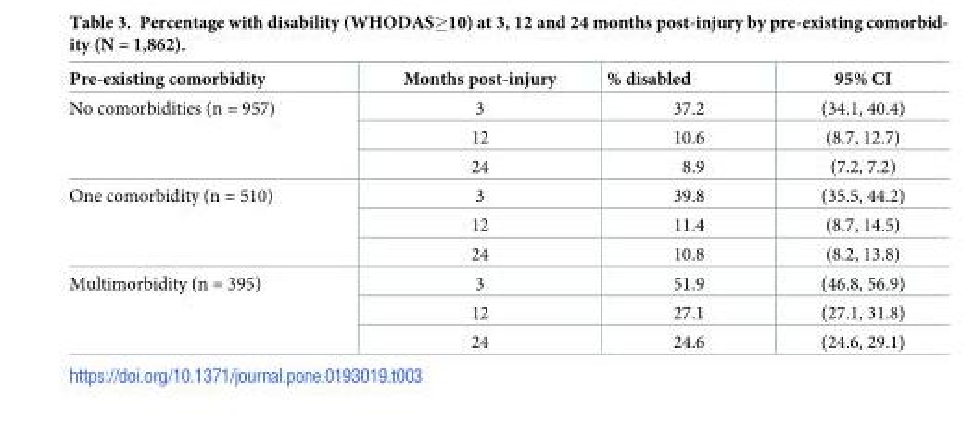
<table><thead><tr><td>Pre-existing comorbidity</td><td>Months post-injury</td><td>% disabled</td><td>95% CI</td></tr></thead><tbody><tr><td rowspan="3">No comorbidities (n = 957)</td><td>3</td><td>37.2</td><td>(34.1, 40.4)</td></tr><tr><td>12</td><td>10.6</td><td>(8.7, 12.7)</td></tr><tr><td>24</td><td>8.9</td><td>(7.2, 7.2)</td></tr><tr><td rowspan="3">One comorbidity (n = 510)</td><td>3</td><td>39.8</td><td>(35.5, 44.2)</td></tr><tr><td>12</td><td>11.4</td><td>(8.7, 14.5)</td></tr><tr><td>24</td><td>10.8</td><td>(8.2, 13.8)</td></tr><tr><td rowspan="3">Multimorbidity (n = 395)</td><td>3</td><td>51.9</td><td>(46.8, 56.9)</td></tr><tr><td>12</td><td>27.1</td><td>(27.1, 31.8)</td></tr><tr><td>24</td><td>24.6</td><td>(24.6, 29.1)</td></tr></tbody></table>